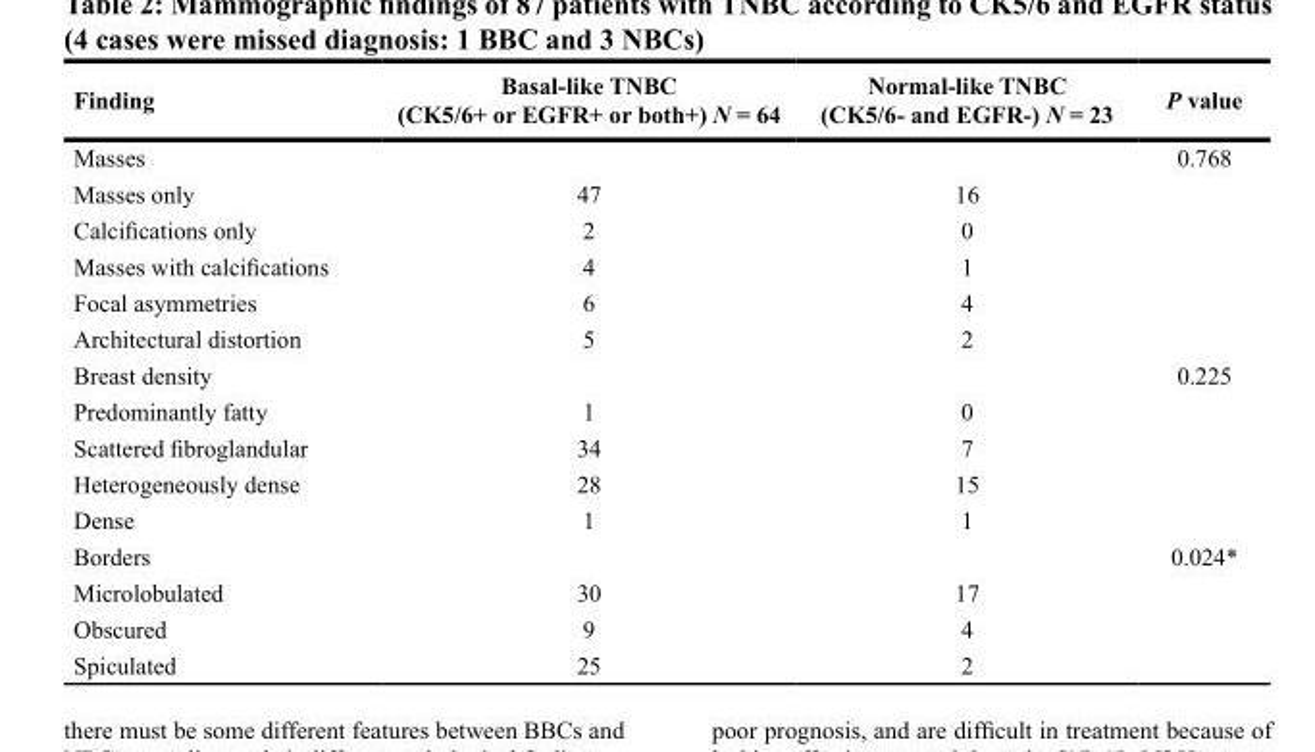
<table><thead><tr><td>Finding</td><td>Basal-like TNBC (CK5/6+ or EGFR+ or both+) N = 64</td><td>Normal-like TNBC (CK5/6- and EGFR-) N = 23</td><td>P value</td></tr></thead><tbody><tr><td>Masses</td><td></td><td></td><td>0.768</td></tr><tr><td>Masses only</td><td>47</td><td>16</td><td></td></tr><tr><td>Calcifications only</td><td>2</td><td>0</td><td></td></tr><tr><td>Masses with calcifications</td><td>4</td><td>1</td><td></td></tr><tr><td>Focal asymmetries</td><td>6</td><td>4</td><td></td></tr><tr><td>Architectural distortion</td><td>5</td><td>2</td><td></td></tr><tr><td>Breast density</td><td></td><td></td><td>0.225</td></tr><tr><td>Predominantly fatty</td><td>1</td><td>0</td><td></td></tr><tr><td>Scattered fibroglandular</td><td>34</td><td>7</td><td></td></tr><tr><td>Heterogeneously dense</td><td>28</td><td>15</td><td></td></tr><tr><td>Dense</td><td>1</td><td>1</td><td></td></tr><tr><td>Borders</td><td></td><td></td><td>0.024*</td></tr><tr><td>Microlobulated</td><td>30</td><td>17</td><td></td></tr><tr><td>Obscured</td><td>9</td><td>4</td><td></td></tr><tr><td>Spiculated</td><td>25</td><td>2</td><td></td></tr></tbody></table>